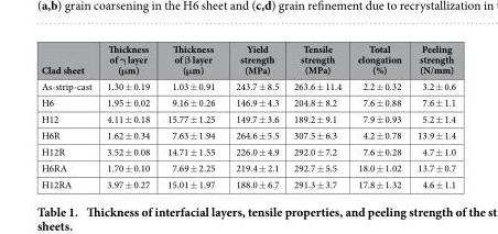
<table><thead><tr><td>Clad sheet</td><td>Thickness of γ layer (μm)</td><td>Thickness of β layer (μm)</td><td>Yield strength (MPa)</td><td>Tensile strength (MPa)</td><td>Total elongation (%)</td><td>Peeling strength (N/mm)</td></tr></thead><tbody><tr><td>As-strip-cast</td><td>1.30 ± 0.19</td><td>1.03 ± 0.91</td><td>243.7 ± 8.5</td><td>263.6 ± 11.4</td><td>2.2 ± 0.32</td><td>3.2 ± 0.6</td></tr><tr><td>H6</td><td>1.95 ± 0.02</td><td>9.16 ± 0.26</td><td>146.9 ± 4.3</td><td>204.8 ± 8.2</td><td>7.6 ± 0.88</td><td>7.6 ± 1.1</td></tr><tr><td>H12</td><td>4.11 ± 0.18</td><td>15.77 ± 1.25</td><td>149.7 ± 3.6</td><td>189.2 ± 9.1</td><td>7.9 ± 0.93</td><td>5.2 ± 1.4</td></tr><tr><td>H6R</td><td>1.62 ± 0.34</td><td>7.63 ± 1.94</td><td>264.6 ± 5.5</td><td>307.5 ± 6.3</td><td>4.2 ± 0.78</td><td>13.9 ± 1.4</td></tr><tr><td>H12R</td><td>3.52 ± 0.08</td><td>14.71 ± 1.55</td><td>226.0 ± 4.9</td><td>292.0 ± 7.2</td><td>7.6 ± 0.28</td><td>4.7 ± 1.0</td></tr><tr><td>H6RA</td><td>1.70 ± 0.10</td><td>7.69 ± 2.25</td><td>219.4 ± 2.1</td><td>292.7 ± 5.5</td><td>18.0 ± 1.02</td><td>13.7 ± 0.7</td></tr><tr><td>H12RA</td><td>3.97 ± 0.27</td><td>15.01 ± 1.97</td><td>188.0 ± 6.7</td><td>291.3 ± 3.7</td><td>17.8 ± 1.32</td><td>4.6 ± 1.1</td></tr></tbody></table>